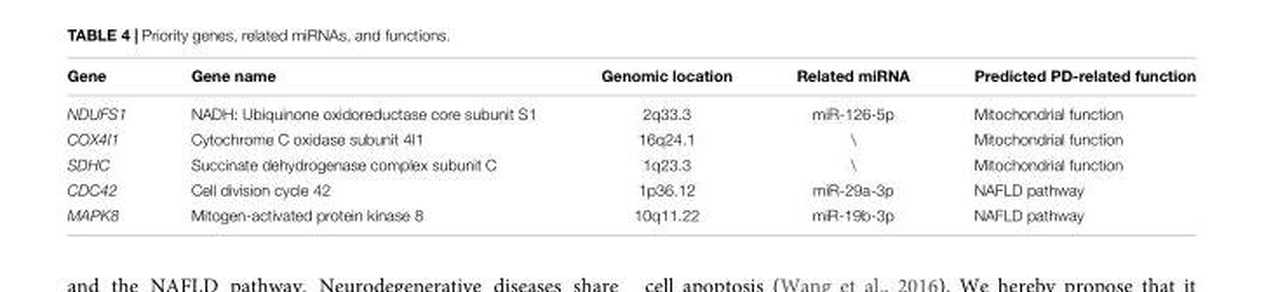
<table><thead><tr><td>Gene</td><td>Gene name</td><td>Genomic location</td><td>Related miRNA</td><td>Predicted PD-related function</td></tr></thead><tbody><tr><td>NDUFS1</td><td>NADH: Ubiquinone oxidoreductase core subunit S1</td><td>2q33.3</td><td>miR-126-5p</td><td>Mitochondrial function</td></tr><tr><td>COX4I1</td><td>Cytochrome C oxidase subunit 4I1</td><td>16q24.1</td><td>\</td><td>Mitochondrial function</td></tr><tr><td>SDHC</td><td>Succinate dehydrogenase complex subunit C</td><td>1q23.3</td><td>\</td><td>Mitochondrial function</td></tr><tr><td>CDC42</td><td>Cell division cycle 42</td><td>1p36.12</td><td>miR-29a-3p</td><td>NAFLD pathway</td></tr><tr><td>MAPK8</td><td>Mitogen-activated protein kinase 8</td><td>10q11.22</td><td>miR-19b-3p</td><td>NAFLD pathway</td></tr></tbody></table>